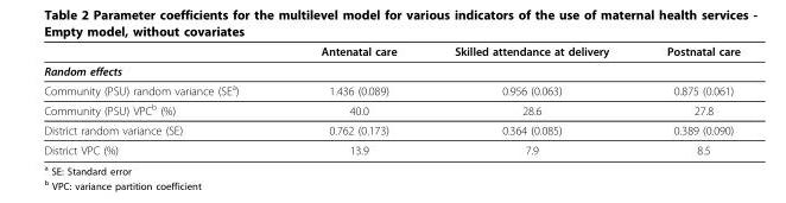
<table><thead><tr><td></td><td>Antenatal care</td><td>Skilled attendance at delivery</td><td>Postnatal care</td></tr></thead><tbody><tr><td colspan="4">Random effects</td></tr><tr><td>Community (PSU) random variance (SE<sup>a</sup>)</td><td>1.436 (0.089)</td><td>0.956 (0.063)</td><td>0.875 (0.061)</td></tr><tr><td>Community (PSU) VPC<sup>b</sup> (%)</td><td>40.0</td><td>28.6</td><td>27.8</td></tr><tr><td>District random variance (SE)</td><td>0.762 (0.173)</td><td>0.364 (0.085)</td><td>0.389 (0.090)</td></tr><tr><td>District VPC (%)</td><td>13.9</td><td>7.9</td><td>8.5</td></tr></tbody></table>